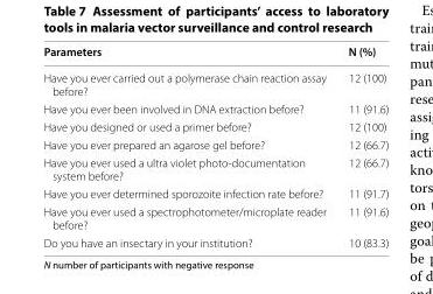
<table><thead><tr><td>Parameters</td><td>N (%)</td></tr></thead><tbody><tr><td>Have you ever carried out a polymerase chain reaction assay before?</td><td>12 (100)</td></tr><tr><td>Have you ever been involved in DNA extraction before?</td><td>11 (91.6)</td></tr><tr><td>Have you designed or used a primer before?</td><td>12 (100)</td></tr><tr><td>Have you ever prepared an agarose gel before?</td><td>12 (66.7)</td></tr><tr><td>Have you ever used a ultra violet photo-documentation system before?</td><td>12 (66.7)</td></tr><tr><td>Have you ever determined sporozoite infection rate before?</td><td>11 (91.7)</td></tr><tr><td>Have you ever used a spectrophotometer/microplate reader before?</td><td>11 (91.6)</td></tr><tr><td>Do you have an insectary in your institution?</td><td>10 (83.3)</td></tr></tbody></table>